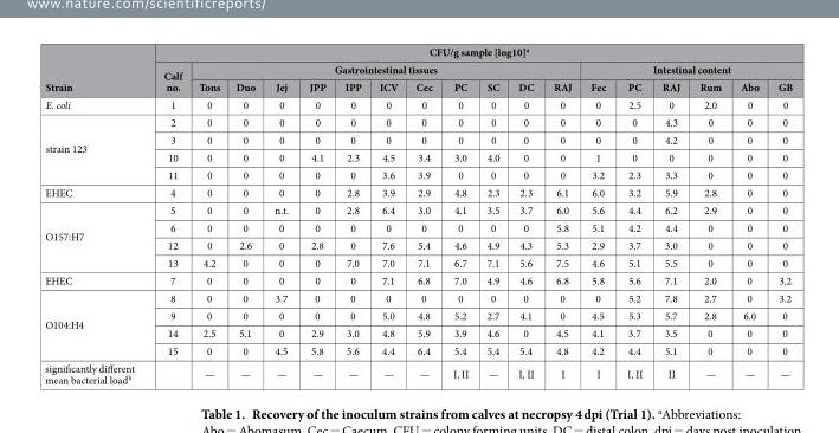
<table><thead><tr><td rowspan="3">Strain</td><td colspan="18">CFU/g sample [log10]<sup>a</sup></td></tr><tr><td rowspan="2">Calf no.</td><td colspan="11">Gastrointestinal tissues</td><td colspan="6">Intestinal content</td></tr><tr><td>Tons</td><td>Duo</td><td>Jej</td><td>JPP</td><td>IPP</td><td>ICV</td><td>Cec</td><td>PC</td><td>SC</td><td>DC</td><td>RAJ</td><td>Fec</td><td>PC</td><td>RAJ</td><td>Rum</td><td>Abo</td><td>GB</td></tr></thead><tbody><tr><td>E. coli</td><td>1</td><td>0</td><td>0</td><td>0</td><td>0</td><td>0</td><td>0</td><td>0</td><td>0</td><td>0</td><td>0</td><td>0</td><td>0</td><td>2.5</td><td>0</td><td>2.0</td><td>0</td><td>0</td></tr><tr><td rowspan="4">strain 123</td><td>2</td><td>0</td><td>0</td><td>0</td><td>0</td><td>0</td><td>0</td><td>0</td><td>0</td><td>0</td><td>0</td><td>0</td><td>0</td><td>0</td><td>4.3</td><td>0</td><td>0</td><td>0</td></tr><tr><td>3</td><td>0</td><td>0</td><td>0</td><td>0</td><td>0</td><td>0</td><td>0</td><td>0</td><td>0</td><td>0</td><td>0</td><td>0</td><td>0</td><td>4.2</td><td>0</td><td>0</td><td>0</td></tr><tr><td>10</td><td>0</td><td>0</td><td>0</td><td>4.1</td><td>2.3</td><td>4.5</td><td>3.4</td><td>3.0</td><td>4.0</td><td>0</td><td>0</td><td>1</td><td>0</td><td>0</td><td>0</td><td>0</td><td>0</td></tr><tr><td>11</td><td>0</td><td>0</td><td>0</td><td>0</td><td>0</td><td>3.6</td><td>3.9</td><td>0</td><td>0</td><td>0</td><td>0</td><td>3.2</td><td>2.3</td><td>3.3</td><td>0</td><td>0</td><td>0</td></tr><tr><td>EHEC</td><td>4</td><td>0</td><td>0</td><td>0</td><td>0</td><td>2.8</td><td>3.9</td><td>2.9</td><td>4.8</td><td>2.3</td><td>2.3</td><td>6.1</td><td>6.0</td><td>3.2</td><td>5.9</td><td>2.8</td><td>0</td><td>0</td></tr><tr><td rowspan="4">O157:H7</td><td>5</td><td>0</td><td>0</td><td>n.t.</td><td>0</td><td>2.8</td><td>6.4</td><td>3.0</td><td>4.1</td><td>3.5</td><td>3.7</td><td>6.0</td><td>5.6</td><td>4.4</td><td>6.2</td><td>2.9</td><td>0</td><td>0</td></tr><tr><td>6</td><td>0</td><td>0</td><td>0</td><td>0</td><td>0</td><td>0</td><td>0</td><td>0</td><td>0</td><td>0</td><td>5.8</td><td>5.1</td><td>4.2</td><td>4.4</td><td>0</td><td>0</td><td>0</td></tr><tr><td>12</td><td>0</td><td>2.6</td><td>0</td><td>2.8</td><td>0</td><td>7.6</td><td>5.4</td><td>4.6</td><td>4.9</td><td>4.3</td><td>5.3</td><td>2.9</td><td>3.7</td><td>3.0</td><td>0</td><td>0</td><td>0</td></tr><tr><td>13</td><td>4.2</td><td>0</td><td>0</td><td>0</td><td>7.0</td><td>7.0</td><td>7.1</td><td>6.7</td><td>7.1</td><td>5.6</td><td>7.5</td><td>4.6</td><td>5.1</td><td>5.5</td><td>0</td><td>0</td><td>0</td></tr><tr><td>EHEC</td><td>7</td><td>0</td><td>0</td><td>0</td><td>0</td><td>0</td><td>7.1</td><td>6.8</td><td>7.0</td><td>4.9</td><td>4.6</td><td>6.8</td><td>5.8</td><td>5.6</td><td>7.1</td><td>2.0</td><td>0</td><td>3.2</td></tr><tr><td rowspan="4">O104:H4</td><td>8</td><td>0</td><td>0</td><td>3.7</td><td>0</td><td>0</td><td>0</td><td>0</td><td>0</td><td>0</td><td>0</td><td>0</td><td>0</td><td>5.2</td><td>7.8</td><td>2.7</td><td>0</td><td>3.2</td></tr><tr><td>9</td><td>0</td><td>0</td><td>0</td><td>0</td><td>0</td><td>5.0</td><td>4.8</td><td>5.2</td><td>2.7</td><td>4.1</td><td>0</td><td>4.5</td><td>5.3</td><td>5.7</td><td>2.8</td><td>6.0</td><td>0</td></tr><tr><td>14</td><td>2.5</td><td>5.1</td><td>0</td><td>2.9</td><td>3.0</td><td>4.8</td><td>5.9</td><td>3.9</td><td>4.6</td><td>0</td><td>4.5</td><td>4.1</td><td>3.7</td><td>3.5</td><td>0</td><td>0</td><td>0</td></tr><tr><td>15</td><td>0</td><td>0</td><td>4.5</td><td>5.8</td><td>5.6</td><td>4.4</td><td>6.4</td><td>5.4</td><td>5.4</td><td>5.4</td><td>4.8</td><td>4.2</td><td>4.4</td><td>5.1</td><td>0</td><td>0</td><td>0</td></tr><tr><td>significantly different mean bacterial load<sup>b</sup></td><td></td><td>—</td><td>—</td><td>—</td><td>—</td><td>—</td><td>—</td><td>—</td><td>I, II</td><td>—</td><td>I, II</td><td>I</td><td>I</td><td>I, II</td><td>II</td><td>—</td><td>—</td><td>—</td></tr></tbody></table>